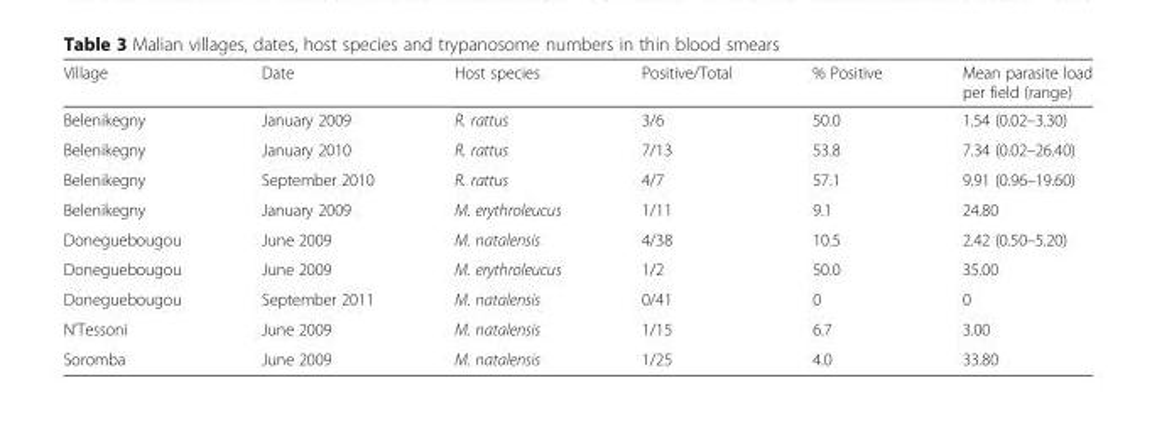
<table><thead><tr><td>Village</td><td>Date</td><td>Host species</td><td>Positive/Total</td><td>% Positive</td><td>Mean parasite load per field (range)</td></tr></thead><tbody><tr><td>Belenikegny</td><td>January 2009</td><td>R. rattus</td><td>3/6</td><td>50.0</td><td>1.54 (0.02–3.30)</td></tr><tr><td>Belenikegny</td><td>January 2010</td><td>R. rattus</td><td>7/13</td><td>53.8</td><td>7.34 (0.02–26.40)</td></tr><tr><td>Belenikegny</td><td>September 2010</td><td>R. rattus</td><td>4/7</td><td>57.1</td><td>9.91 (0.96–19.60)</td></tr><tr><td>Belenikegny</td><td>January 2009</td><td>M. erythroleucus</td><td>1/11</td><td>9.1</td><td>24.80</td></tr><tr><td>Doneguebougou</td><td>June 2009</td><td>M. natalensis</td><td>4/38</td><td>10.5</td><td>2.42 (0.50–5.20)</td></tr><tr><td>Doneguebougou</td><td>June 2009</td><td>M. erythroleucus</td><td>1/2</td><td>50.0</td><td>35.00</td></tr><tr><td>Doneguebougou</td><td>September 2011</td><td>M. natalensis</td><td>0/41</td><td>0</td><td>0</td></tr><tr><td>N’Tessoni</td><td>June 2009</td><td>M. natalensis</td><td>1/15</td><td>6.7</td><td>3.00</td></tr><tr><td>Soromba</td><td>June 2009</td><td>M. natalensis</td><td>1/25</td><td>4.0</td><td>33.80</td></tr></tbody></table>